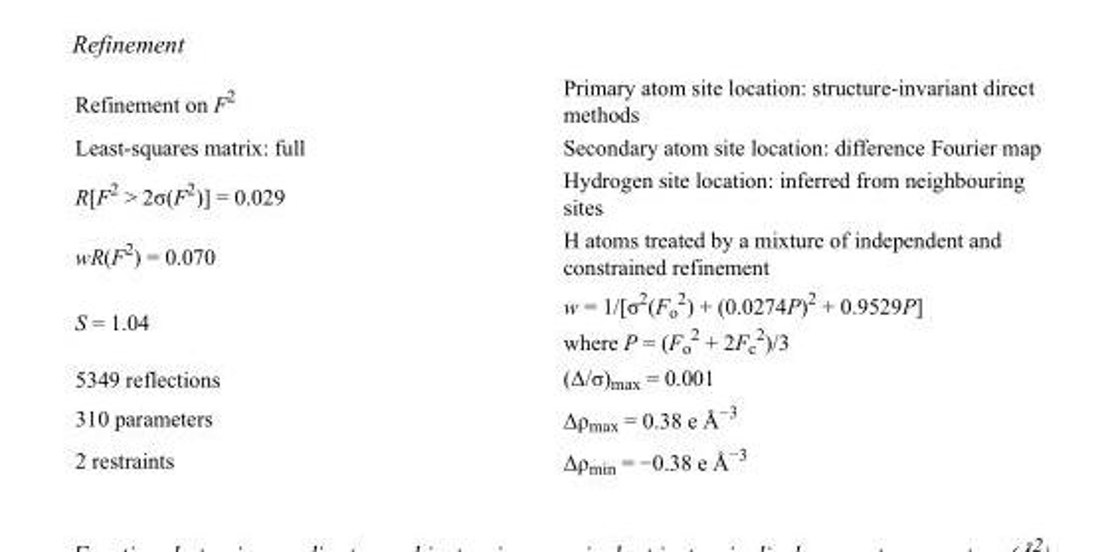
<table><tbody><tr><td>Refinement on F<sup>2</sup></td><td>Primary atom site location: structure-invariant direct methods</td></tr><tr><td>Least-squares matrix: full</td><td>Secondary atom site location: difference Fourier map</td></tr><tr><td>R[F<sup>2</sup> &gt; 2σ(F<sup>2</sup>)] = 0.029</td><td>Hydrogen site location: inferred from neighbouring sites</td></tr><tr><td>wR(F<sup>2</sup>) = 0.070</td><td>H atoms treated by a mixture of independent and constrained refinement</td></tr><tr><td>S = 1.04</td><td>w = 1/[σ<sup>2</sup>(F<sub>o</sub> <sup>2</sup>) + (0.0274P)<sup>2</sup> + 0.9529P] where P = (F<sub>o</sub> <sup>2</sup> + 2F<sub>c</sub> <sup>2</sup>)/3</td></tr><tr><td>5349 reflections</td><td>(Δ/σ)<sub>max</sub> = 0.001</td></tr><tr><td>310 parameters</td><td>Δρ<sub>max</sub> = 0.38 e Å<sup>−3</sup></td></tr><tr><td>2 restraints</td><td>Δρ<sub>min</sub> = −0.38 e Å<sup>−3</sup></td></tr></tbody></table>